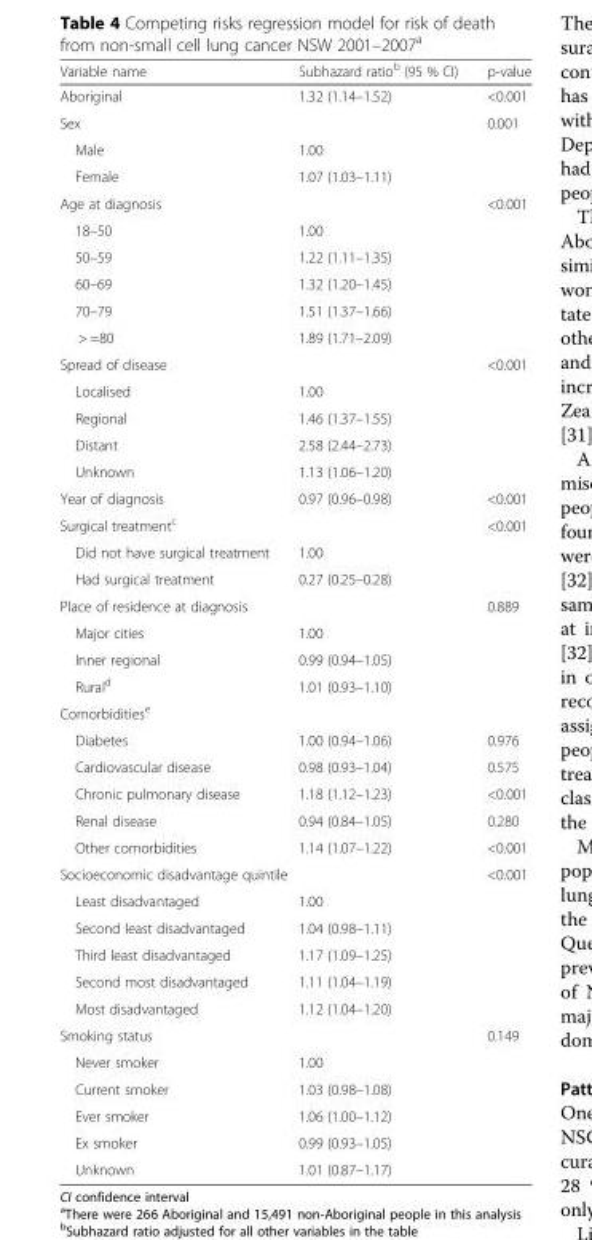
<table><thead><tr><td>Variable name</td><td>Subhazard ratio<sup>b</sup> (95 % CI)</td><td>p-value</td></tr></thead><tbody><tr><td>Aboriginal</td><td>1.32 (1.14–1.52)</td><td>&lt;0.001</td></tr><tr><td>Sex</td><td></td><td>0.001</td></tr><tr><td>Male</td><td>1.00</td><td></td></tr><tr><td>Female</td><td>1.07 (1.03–1.11)</td><td></td></tr><tr><td>Age at diagnosis</td><td></td><td>&lt;0.001</td></tr><tr><td>18–50</td><td>1.00</td><td></td></tr><tr><td>50–59</td><td>1.22 (1.11–1.35)</td><td></td></tr><tr><td>60–69</td><td>1.32 (1.20–1.45)</td><td></td></tr><tr><td>70–79</td><td>1.51 (1.37–1.66)</td><td></td></tr><tr><td>&gt; =80</td><td>1.89 (1.71–2.09)</td><td></td></tr><tr><td>Spread of disease</td><td></td><td>&lt;0.001</td></tr><tr><td>Localised</td><td>1.00</td><td></td></tr><tr><td>Regional</td><td>1.46 (1.37–1.55)</td><td></td></tr><tr><td>Distant</td><td>2.58 (2.44–2.73)</td><td></td></tr><tr><td>Unknown</td><td>1.13 (1.06–1.20)</td><td></td></tr><tr><td>Year of diagnosis</td><td>0.97 (0.96–0.98)</td><td>&lt;0.001</td></tr><tr><td>Surgical treatment<sup>c</sup></td><td></td><td>&lt;0.001</td></tr><tr><td>Did not have surgical treatment</td><td>1.00</td><td></td></tr><tr><td>Had surgical treatment</td><td>0.27 (0.25–0.28)</td><td></td></tr><tr><td>Place of residence at diagnosis</td><td></td><td>0.889</td></tr><tr><td>Major cities</td><td>1.00</td><td></td></tr><tr><td>Inner regional</td><td>0.99 (0.94–1.05)</td><td></td></tr><tr><td>Rural<sup>d</sup></td><td>1.01 (0.93–1.10)</td><td></td></tr><tr><td colspan="3">Comorbidities<sup>e</sup></td></tr><tr><td>Diabetes</td><td>1.00 (0.94–1.06)</td><td>0.976</td></tr><tr><td>Cardiovascular disease</td><td>0.98 (0.93–1.04)</td><td>0.575</td></tr><tr><td>Chronic pulmonary disease</td><td>1.18 (1.12–1.23)</td><td>&lt;0.001</td></tr><tr><td>Renal disease</td><td>0.94 (0.84–1.05)</td><td>0.280</td></tr><tr><td>Other comorbidities</td><td>1.14 (1.07–1.22)</td><td>&lt;0.001</td></tr><tr><td colspan="2">Socioeconomic disadvantage quintile</td><td>&lt;0.001</td></tr><tr><td>Least disadvantaged</td><td>1.00</td><td></td></tr><tr><td>Second least disadvantaged</td><td>1.04 (0.98–1.11)</td><td></td></tr><tr><td>Third least disadvantaged</td><td>1.17 (1.09–1.25)</td><td></td></tr><tr><td>Second most disadvantaged</td><td>1.11 (1.04–1.19)</td><td></td></tr><tr><td>Most disadvantaged</td><td>1.12 (1.04–1.20)</td><td></td></tr><tr><td>Smoking status</td><td></td><td>0.149</td></tr><tr><td>Never smoker</td><td>1.00</td><td></td></tr><tr><td>Current smoker</td><td>1.03 (0.98–1.08)</td><td></td></tr><tr><td>Ever smoker</td><td>1.06 (1.00–1.12)</td><td></td></tr><tr><td>Ex smoker</td><td>0.99 (0.93–1.05)</td><td></td></tr><tr><td>Unknown</td><td>1.01 (0.87–1.17)</td><td></td></tr></tbody></table>